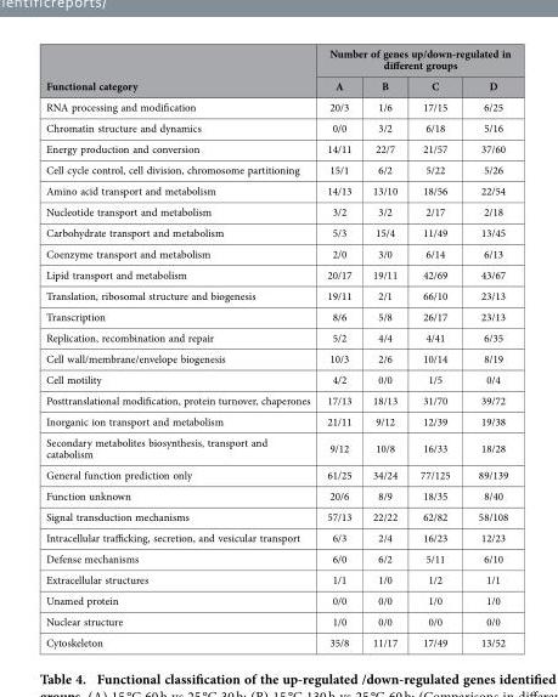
<table><thead><tr><td rowspan="2">Functional category</td><td colspan="4">Number of genes up/down-regulated in different groups</td></tr><tr><td>A</td><td>B</td><td>C</td><td>D</td></tr></thead><tbody><tr><td>RNA processing and modification</td><td>20/3</td><td>1/6</td><td>17/15</td><td>6/25</td></tr><tr><td>Chromatin structure and dynamics</td><td>0/0</td><td>3/2</td><td>6/18</td><td>5/16</td></tr><tr><td>Energy production and conversion</td><td>14/11</td><td>22/7</td><td>21/57</td><td>37/60</td></tr><tr><td>Cell cycle control, cell division, chromosome partitioning</td><td>15/1</td><td>6/2</td><td>5/22</td><td>5/26</td></tr><tr><td>Amino acid transport and metabolism</td><td>14/13</td><td>13/10</td><td>18/56</td><td>22/54</td></tr><tr><td>Nucleotide transport and metabolism</td><td>3/2</td><td>3/2</td><td>2/17</td><td>2/18</td></tr><tr><td>Carbohydrate transport and metabolism</td><td>5/3</td><td>15/4</td><td>11/49</td><td>13/45</td></tr><tr><td>Coenzyme transport and metabolism</td><td>2/0</td><td>3/0</td><td>6/14</td><td>6/13</td></tr><tr><td>Lipid transport and metabolism</td><td>20/17</td><td>19/11</td><td>42/69</td><td>43/67</td></tr><tr><td>Translation, ribosomal structure and biogenesis</td><td>19/11</td><td>2/1</td><td>66/10</td><td>23/13</td></tr><tr><td>Transcription</td><td>8/6</td><td>5/8</td><td>26/17</td><td>23/13</td></tr><tr><td>Replication, recombination and repair</td><td>5/2</td><td>4/4</td><td>4/41</td><td>6/35</td></tr><tr><td>Cell wall/membrane/envelope biogenesis</td><td>10/3</td><td>2/6</td><td>10/14</td><td>8/19</td></tr><tr><td>Cell motility</td><td>4/2</td><td>0/0</td><td>1/5</td><td>0/4</td></tr><tr><td>Posttranslational modification, protein turnover, chaperones</td><td>17/13</td><td>18/13</td><td>31/70</td><td>39/72</td></tr><tr><td>Inorganic ion transport and metabolism</td><td>21/11</td><td>9/12</td><td>12/39</td><td>19/38</td></tr><tr><td>Secondary metabolites biosynthesis, transport and catabolism</td><td>9/12</td><td>10/8</td><td>16/33</td><td>18/28</td></tr><tr><td>General function prediction only</td><td>61/25</td><td>34/24</td><td>77/125</td><td>89/139</td></tr><tr><td>Function unknown</td><td>20/6</td><td>8/9</td><td>18/35</td><td>8/40</td></tr><tr><td>Signal transduction mechanisms</td><td>57/13</td><td>22/22</td><td>62/82</td><td>58/108</td></tr><tr><td>Intracellular trafficking, secretion, and vesicular transport</td><td>6/3</td><td>2/4</td><td>16/23</td><td>12/23</td></tr><tr><td>Defense mechanisms</td><td>6/0</td><td>6/2</td><td>5/11</td><td>6/10</td></tr><tr><td>Extracellular structures</td><td>1/1</td><td>1/0</td><td>1/2</td><td>1/1</td></tr><tr><td>Unamed protein</td><td>0/0</td><td>0/0</td><td>1/0</td><td>1/0</td></tr><tr><td>Nuclear structure</td><td>1/0</td><td>0/0</td><td>0/0</td><td>0/0</td></tr><tr><td>Cytoskeleton</td><td>35/8</td><td>11/17</td><td>17/49</td><td>13/52</td></tr></tbody></table>